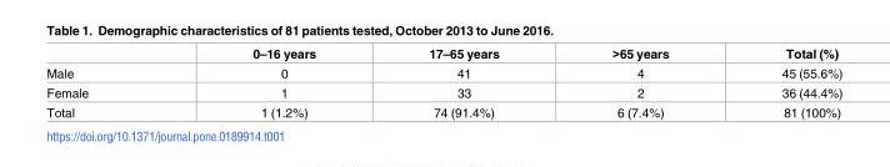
<table><thead><tr><td></td><td>0–16 years</td><td>17–65 years</td><td>&gt;65 years</td><td>Total (%)</td></tr></thead><tbody><tr><td>Male</td><td>0</td><td>41</td><td>4</td><td>45 (55.6%)</td></tr><tr><td>Female</td><td>1</td><td>33</td><td>2</td><td>36 (44.4%)</td></tr><tr><td>Total</td><td>1 (1.2%)</td><td>74 (91.4%)</td><td>6 (7.4%)</td><td>81 (100%)</td></tr></tbody></table>